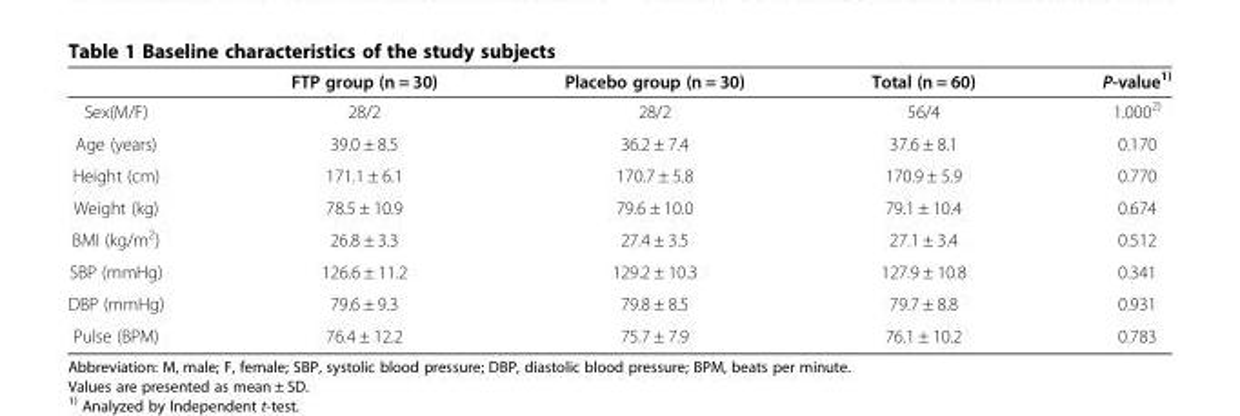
<table><thead><tr><td></td><td>FTP group (n = 30)</td><td>Placebo group (n = 30)</td><td>Total (n = 60)</td><td>P-value<sup>1)</sup></td></tr></thead><tbody><tr><td>Sex(M/F)</td><td>28/2</td><td>28/2</td><td>56/4</td><td>1.000<sup>2)</sup></td></tr><tr><td>Age (years)</td><td>39.0 ± 8.5</td><td>36.2 ± 7.4</td><td>37.6 ± 8.1</td><td>0.170</td></tr><tr><td>Height (cm)</td><td>171.1 ± 6.1</td><td>170.7 ± 5.8</td><td>170.9 ± 5.9</td><td>0.770</td></tr><tr><td>Weight (kg)</td><td>78.5 ± 10.9</td><td>79.6 ± 10.0</td><td>79.1 ± 10.4</td><td>0.674</td></tr><tr><td>BMI (kg/m<sup>2</sup>)</td><td>26.8 ± 3.3</td><td>27.4 ± 3.5</td><td>27.1 ± 3.4</td><td>0.512</td></tr><tr><td>SBP (mmHg)</td><td>126.6 ± 11.2</td><td>129.2 ± 10.3</td><td>127.9 ± 10.8</td><td>0.341</td></tr><tr><td>DBP (mmHg)</td><td>79.6 ± 9.3</td><td>79.8 ± 8.5</td><td>79.7 ± 8.8</td><td>0.931</td></tr><tr><td>Pulse (BPM)</td><td>76.4 ± 12.2</td><td>75.7 ± 7.9</td><td>76.1 ± 10.2</td><td>0.783</td></tr></tbody></table>